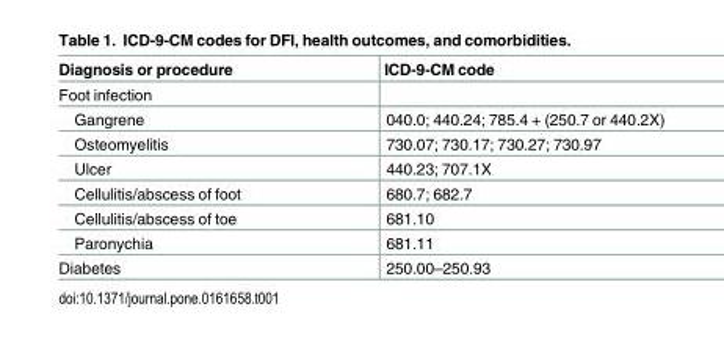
<table><thead><tr><td>Diagnosis or procedure</td><td>ICD-9-CM code</td></tr></thead><tbody><tr><td colspan="2">Foot infection</td></tr><tr><td>Gangrene</td><td>040.0; 440.24; 785.4 + (250.7 or 440.2X)</td></tr><tr><td>Osteomyelitis</td><td>730.07; 730.17; 730.27; 730.97</td></tr><tr><td>Ulcer</td><td>440.23; 707.1X</td></tr><tr><td>Cellulitis/abscess of foot</td><td>680.7; 682.7</td></tr><tr><td>Cellulitis/abscess of toe</td><td>681.10</td></tr><tr><td>Paronychia</td><td>681.11</td></tr><tr><td>Diabetes</td><td>250.00–250.93</td></tr></tbody></table>